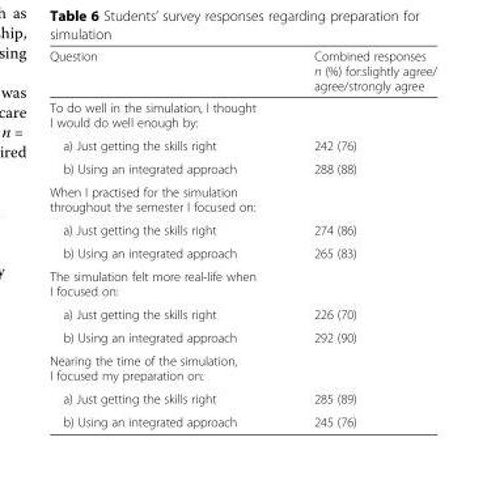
<table><thead><tr><td>Question</td><td>Combined responses n (%) for:slightly agree/ agree/strongly agree</td></tr></thead><tbody><tr><td colspan="2">To do well in the simulation, I thought I would do well enough by:</td></tr><tr><td>a) Just getting the skills right</td><td>242 (76)</td></tr><tr><td>b) Using an integrated approach</td><td>288 (88)</td></tr><tr><td colspan="2">When I practised for the simulation throughout the semester I focused on:</td></tr><tr><td>a) Just getting the skills right</td><td>274 (86)</td></tr><tr><td>b) Using an integrated approach</td><td>265 (83)</td></tr><tr><td colspan="2">The simulation felt more real-life when I focused on:</td></tr><tr><td>a) Just getting the skills right</td><td>226 (70)</td></tr><tr><td>b) Using an integrated approach</td><td>292 (90)</td></tr><tr><td colspan="2">Nearing the time of the simulation, I focused my preparation on:</td></tr><tr><td>a) Just getting the skills right</td><td>285 (89)</td></tr><tr><td>b) Using an integrated approach</td><td>245 (76)</td></tr></tbody></table>